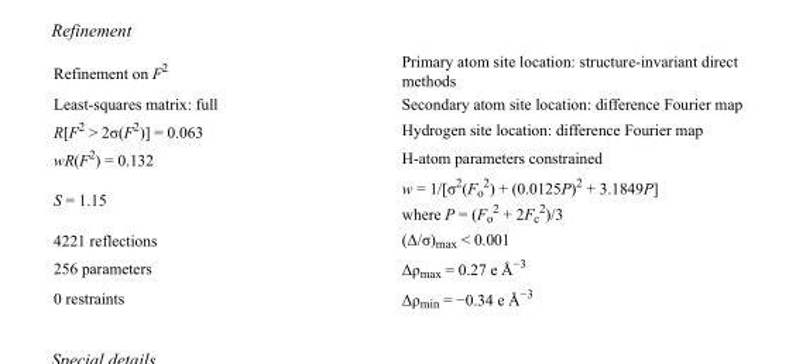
<table><tbody><tr><td>Refinement on F<sup>2</sup></td><td>Primary atom site location: structure-invariant direct methods</td></tr><tr><td>Least-squares matrix: full</td><td>Secondary atom site location: difference Fourier map</td></tr><tr><td>R[F<sup>2</sup> &gt; 2σ(F<sup>2</sup>)] = 0.063</td><td>Hydrogen site location: difference Fourier map</td></tr><tr><td>wR(F<sup>2</sup>) = 0.132</td><td>H-atom parameters constrained</td></tr><tr><td>S = 1.15</td><td>w = 1/[σ<sup>2</sup>(F<sub>o</sub> <sup>2</sup>) + (0.0125P)<sup>2</sup> + 3.1849P] where P = (F<sub>o</sub> <sup>2</sup> + 2F<sub>c</sub> <sup>2</sup>)/3</td></tr><tr><td>4221 reflections</td><td>(Δ/σ)<sub>max</sub> &lt; 0.001</td></tr><tr><td>256 parameters</td><td>Δρ<sub>max</sub> = 0.27 e Å<sup>−3</sup></td></tr><tr><td>0 restraints</td><td>Δρ<sub>min</sub> = −0.34 e Å<sup>−3</sup></td></tr></tbody></table>